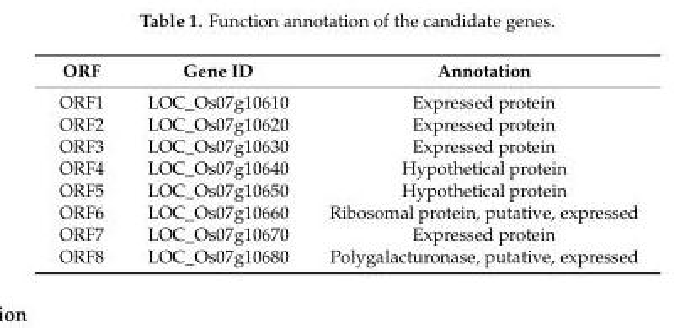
<table><thead><tr><td>ORF</td><td>Gene ID</td><td>Annotation</td></tr></thead><tbody><tr><td>ORF1</td><td>LOC_Os07g10610</td><td>Expressed protein</td></tr><tr><td>ORF2</td><td>LOC_Os07g10620</td><td>Expressed protein</td></tr><tr><td>ORF3</td><td>LOC_Os07g10630</td><td>Expressed protein</td></tr><tr><td>ORF4</td><td>LOC_Os07g10640</td><td>Hypothetical protein</td></tr><tr><td>ORF5</td><td>LOC_Os07g10650</td><td>Hypothetical protein</td></tr><tr><td>ORF6</td><td>LOC_Os07g10660</td><td>Ribosomal protein, putative, expressed</td></tr><tr><td>ORF7</td><td>LOC_Os07g10670</td><td>Expressed protein</td></tr><tr><td>ORF8</td><td>LOC_Os07g10680</td><td>Polygalacturonase, putative, expressed</td></tr></tbody></table>